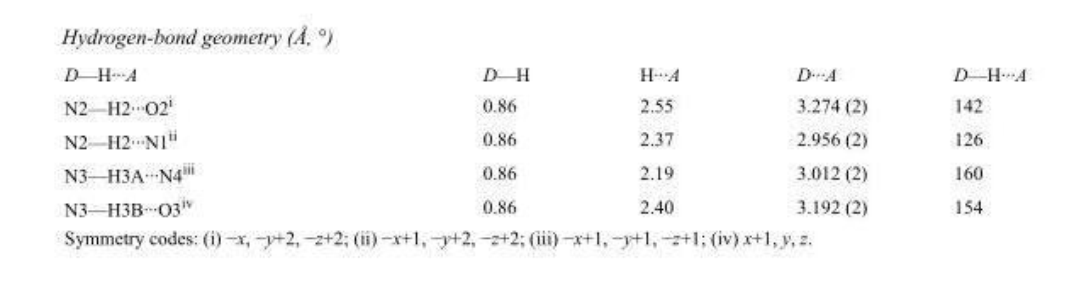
<table><tbody><tr><td>D—H···A</td><td>D—H</td><td>H···A</td><td>D···A</td><td>D—H···A</td></tr><tr><td>N2—H2···O2<sup>i</sup></td><td>0.86</td><td>2.55</td><td>3.274 (2)</td><td>142</td></tr><tr><td>N2—H2···N1<sup>ii</sup></td><td>0.86</td><td>2.37</td><td>2.956 (2)</td><td>126</td></tr><tr><td>N3—H3A···N4<sup>iii</sup></td><td>0.86</td><td>2.19</td><td>3.012 (2)</td><td>160</td></tr><tr><td>N3—H3B···O3<sup>iv</sup></td><td>0.86</td><td>2.40</td><td>3.192 (2)</td><td>154</td></tr></tbody></table>